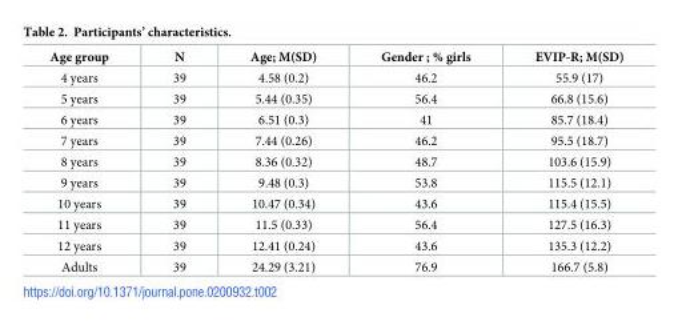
<table><thead><tr><td>Age group</td><td>N</td><td>Age; M(SD)</td><td>Gender ; % girls</td><td>EVIP-R; M(SD)</td></tr></thead><tbody><tr><td>4 years</td><td>39</td><td>4.58 (0.2)</td><td>46.2</td><td>55.9 (17)</td></tr><tr><td>5 years</td><td>39</td><td>5.44 (0.35)</td><td>56.4</td><td>66.8 (15.6)</td></tr><tr><td>6 years</td><td>39</td><td>6.51 (0.3)</td><td>41</td><td>85.7 (18.4)</td></tr><tr><td>7 years</td><td>39</td><td>7.44 (0.26)</td><td>46.2</td><td>95.5 (18.7)</td></tr><tr><td>8 years</td><td>39</td><td>8.36 (0.32)</td><td>48.7</td><td>103.6 (15.9)</td></tr><tr><td>9 years</td><td>39</td><td>9.48 (0.3)</td><td>53.8</td><td>115.5 (12.1)</td></tr><tr><td>10 years</td><td>39</td><td>10.47 (0.34)</td><td>43.6</td><td>115.4 (15.5)</td></tr><tr><td>11 years</td><td>39</td><td>11.5 (0.33)</td><td>56.4</td><td>127.5 (16.3)</td></tr><tr><td>12 years</td><td>39</td><td>12.41 (0.24)</td><td>43.6</td><td>135.3 (12.2)</td></tr><tr><td>Adults</td><td>39</td><td>24.29 (3.21)</td><td>76.9</td><td>166.7 (5.8)</td></tr></tbody></table>